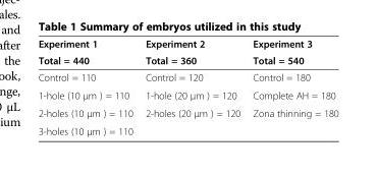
<table><thead><tr><td rowspan="2">Experiment 1 Total = 440</td><td rowspan="2">Experiment 2 Total = 360</td><td rowspan="2">Experiment 3 Total = 540</td></tr><tr></tr></thead><tbody><tr><td>Control = 110</td><td>Control = 120</td><td>Control = 180</td></tr><tr><td>1-hole (10 μm ) = 110</td><td>1-hole (20 μm ) = 120</td><td>Complete AH = 180</td></tr><tr><td>2-holes (10 μm ) = 110</td><td>2-holes (20 μm ) = 120</td><td>Zona thinning = 180</td></tr><tr><td>3-holes (10 μm ) = 110</td><td></td><td></td></tr></tbody></table>